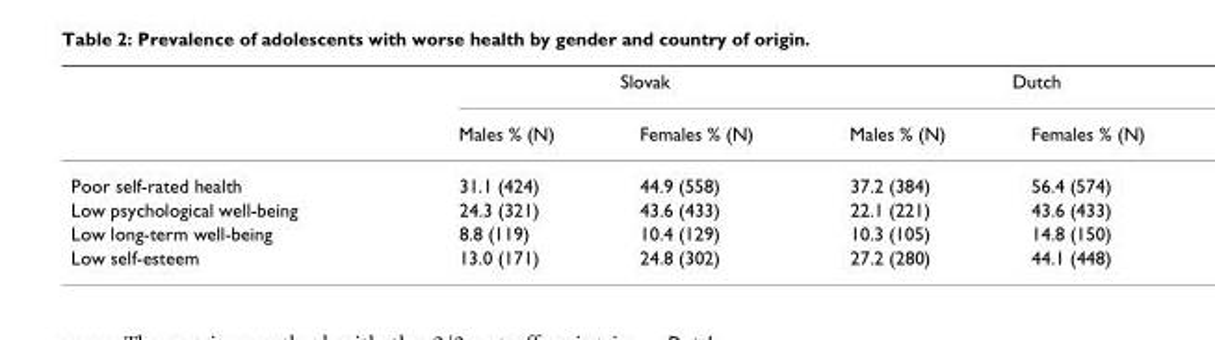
<table><thead><tr><td rowspan="2"></td><td colspan="2">Slovak</td><td colspan="2">Dutch</td></tr><tr><td>Males % (N)</td><td>Females % (N)</td><td>Males % (N)</td><td>Females % (N)</td></tr></thead><tbody><tr><td>Poor self-rated health</td><td>31.1 (424)</td><td>44.9 (558)</td><td>37.2 (384)</td><td>56.4 (574)</td></tr><tr><td>Low psychological well-being</td><td>24.3 (321)</td><td>43.6 (433)</td><td>22.1 (221)</td><td>43.6 (433)</td></tr><tr><td>Low long-term well-being</td><td>8.8 (119)</td><td>10.4 (129)</td><td>10.3 (105)</td><td>14.8 (150)</td></tr><tr><td>Low self-esteem</td><td>13.0 (171)</td><td>24.8 (302)</td><td>27.2 (280)</td><td>44.1 (448)</td></tr></tbody></table>